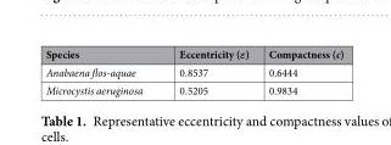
<table><thead><tr><td>Species</td><td>Eccentricity (ε)</td><td>Compactness (c)</td></tr></thead><tbody><tr><td>Anabaena flos-aquae</td><td>0.8537</td><td>0.6444</td></tr><tr><td>Microcystis aeruginosa</td><td>0.5205</td><td>0.9834</td></tr></tbody></table>